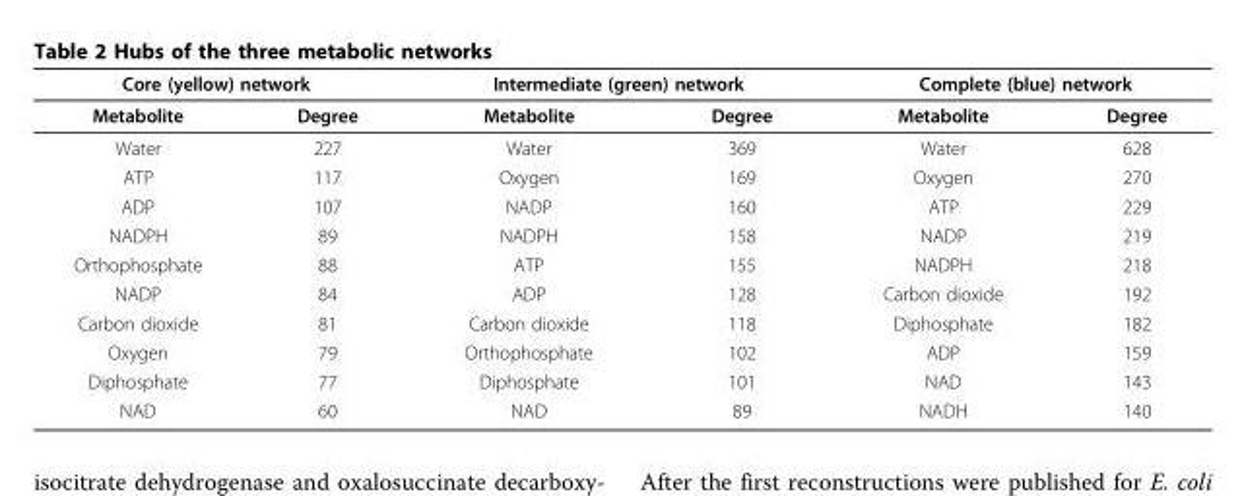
<table><thead><tr><td colspan="2">Core (yellow) network</td><td colspan="2">Intermediate (green) network</td><td colspan="2">Complete (blue) network</td></tr><tr><td>Metabolite</td><td>Degree</td><td>Metabolite</td><td>Degree</td><td>Metabolite</td><td>Degree</td></tr></thead><tbody><tr><td>Water</td><td>227</td><td>Water</td><td>369</td><td>Water</td><td>628</td></tr><tr><td>ATP</td><td>117</td><td>Oxygen</td><td>169</td><td>Oxygen</td><td>270</td></tr><tr><td>ADP</td><td>107</td><td>NADP</td><td>160</td><td>ATP</td><td>229</td></tr><tr><td>NADPH</td><td>89</td><td>NADPH</td><td>158</td><td>NADP</td><td>219</td></tr><tr><td>Orthophosphate</td><td>88</td><td>ATP</td><td>155</td><td>NADPH</td><td>218</td></tr><tr><td>NADP</td><td>84</td><td>ADP</td><td>128</td><td>Carbon dioxide</td><td>192</td></tr><tr><td>Carbon dioxide</td><td>81</td><td>Carbon dioxide</td><td>118</td><td>Diphosphate</td><td>182</td></tr><tr><td>Oxygen</td><td>79</td><td>Orthophosphate</td><td>102</td><td>ADP</td><td>159</td></tr><tr><td>Diphosphate</td><td>77</td><td>Diphosphate</td><td>101</td><td>NAD</td><td>143</td></tr><tr><td>NAD</td><td>60</td><td>NAD</td><td>89</td><td>NADH</td><td>140</td></tr></tbody></table>